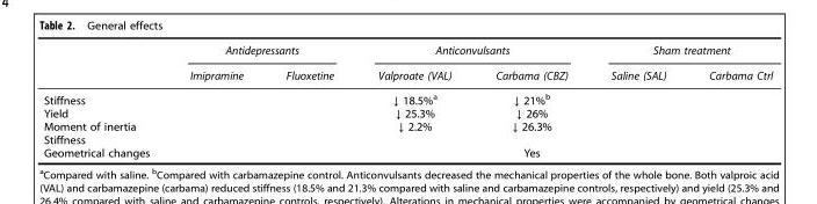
<table><thead><tr><td rowspan="2"></td><td colspan="2">Antidepressants</td><td colspan="2">Anticonvulsants</td><td colspan="2">Sham treatment</td></tr><tr><td>Imipramine</td><td>Fluoxetine</td><td>Valproate (VAL)</td><td>Carbama (CBZ)</td><td>Saline (SAL)</td><td>Carbama Ctrl</td></tr></thead><tbody><tr><td>Stiffness</td><td></td><td></td><td>↓ 18.5%<sup>a</sup></td><td>↓ 21%<sup>b</sup></td><td></td><td></td></tr><tr><td>Yield</td><td></td><td></td><td>↓ 25.3%</td><td>↓ 26%</td><td></td><td></td></tr><tr><td>Moment of inertia</td><td></td><td></td><td>↓ 2.2%</td><td>↓ 26.3%</td><td></td><td></td></tr><tr><td colspan="7">Stiffness</td></tr><tr><td>Geometrical changes</td><td></td><td></td><td></td><td>Yes</td><td></td><td></td></tr></tbody></table>